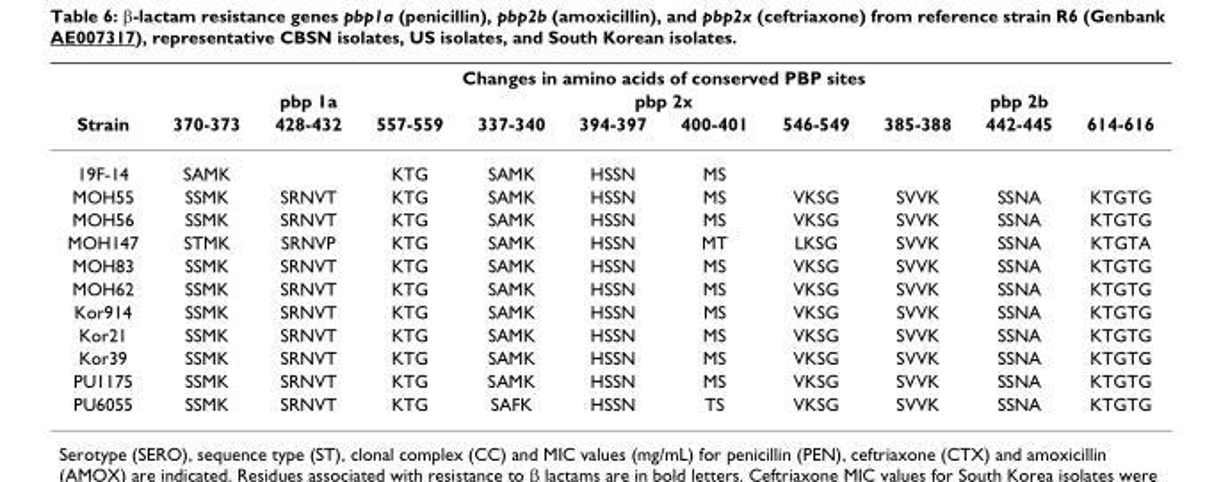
<table><thead><tr><td rowspan="3">Strain</td><td colspan="10">Changes in amino acids of conserved PBP sites</td></tr><tr><td colspan="3">pbp 1a</td><td colspan="4">pbp 2x</td><td colspan="3">pbp 2b</td></tr><tr><td>370-373</td><td>428-432</td><td>557-559</td><td>337-340</td><td>394-397</td><td>400-401</td><td>546-549</td><td>385-388</td><td>442-445</td><td>614-616</td></tr></thead><tbody><tr><td>19F-14</td><td>SAMK</td><td></td><td>KTG</td><td>SAMK</td><td>HSSN</td><td>MS</td><td></td><td></td><td></td><td></td></tr><tr><td>MOH55</td><td>SSMK</td><td>SRNVT</td><td>KTG</td><td>SAMK</td><td>HSSN</td><td>MS</td><td>VKSG</td><td>SVVK</td><td>SSNA</td><td>KTGTG</td></tr><tr><td>MOH56</td><td>SSMK</td><td>SRNVT</td><td>KTG</td><td>SAMK</td><td>HSSN</td><td>MS</td><td>VKSG</td><td>SVVK</td><td>SSNA</td><td>KTGTG</td></tr><tr><td>MOH147</td><td>STMK</td><td>SRNVP</td><td>KTG</td><td>SAMK</td><td>HSSN</td><td>MT</td><td>LKSG</td><td>SVVK</td><td>SSNA</td><td>KTGTA</td></tr><tr><td>MOH83</td><td>SSMK</td><td>SRNVT</td><td>KTG</td><td>SAMK</td><td>HSSN</td><td>MS</td><td>VKSG</td><td>SVVK</td><td>SSNA</td><td>KTGTG</td></tr><tr><td>MOH62</td><td>SSMK</td><td>SRNVT</td><td>KTG</td><td>SAMK</td><td>HSSN</td><td>MS</td><td>VKSG</td><td>SVVK</td><td>SSNA</td><td>KTGTG</td></tr><tr><td>Kor914</td><td>SSMK</td><td>SRNVT</td><td>KTG</td><td>SAMK</td><td>HSSN</td><td>MS</td><td>VKSG</td><td>SVVK</td><td>SSNA</td><td>KTGTG</td></tr><tr><td>Kor21</td><td>SSMK</td><td>SRNVT</td><td>KTG</td><td>SAMK</td><td>HSSN</td><td>MS</td><td>VKSG</td><td>SVVK</td><td>SSNA</td><td>KTGTG</td></tr><tr><td>Kor39</td><td>SSMK</td><td>SRNVT</td><td>KTG</td><td>SAMK</td><td>HSSN</td><td>MS</td><td>VKSG</td><td>SVVK</td><td>SSNA</td><td>KTGTG</td></tr><tr><td>PU1175</td><td>SSMK</td><td>SRNVT</td><td>KTG</td><td>SAMK</td><td>HSSN</td><td>MS</td><td>VKSG</td><td>SVVK</td><td>SSNA</td><td>KTGTG</td></tr><tr><td>PU6055</td><td>SSMK</td><td>SRNVT</td><td>KTG</td><td>SAFK</td><td>HSSN</td><td>TS</td><td>VKSG</td><td>SVVK</td><td>SSNA</td><td>KTGTG</td></tr></tbody></table>